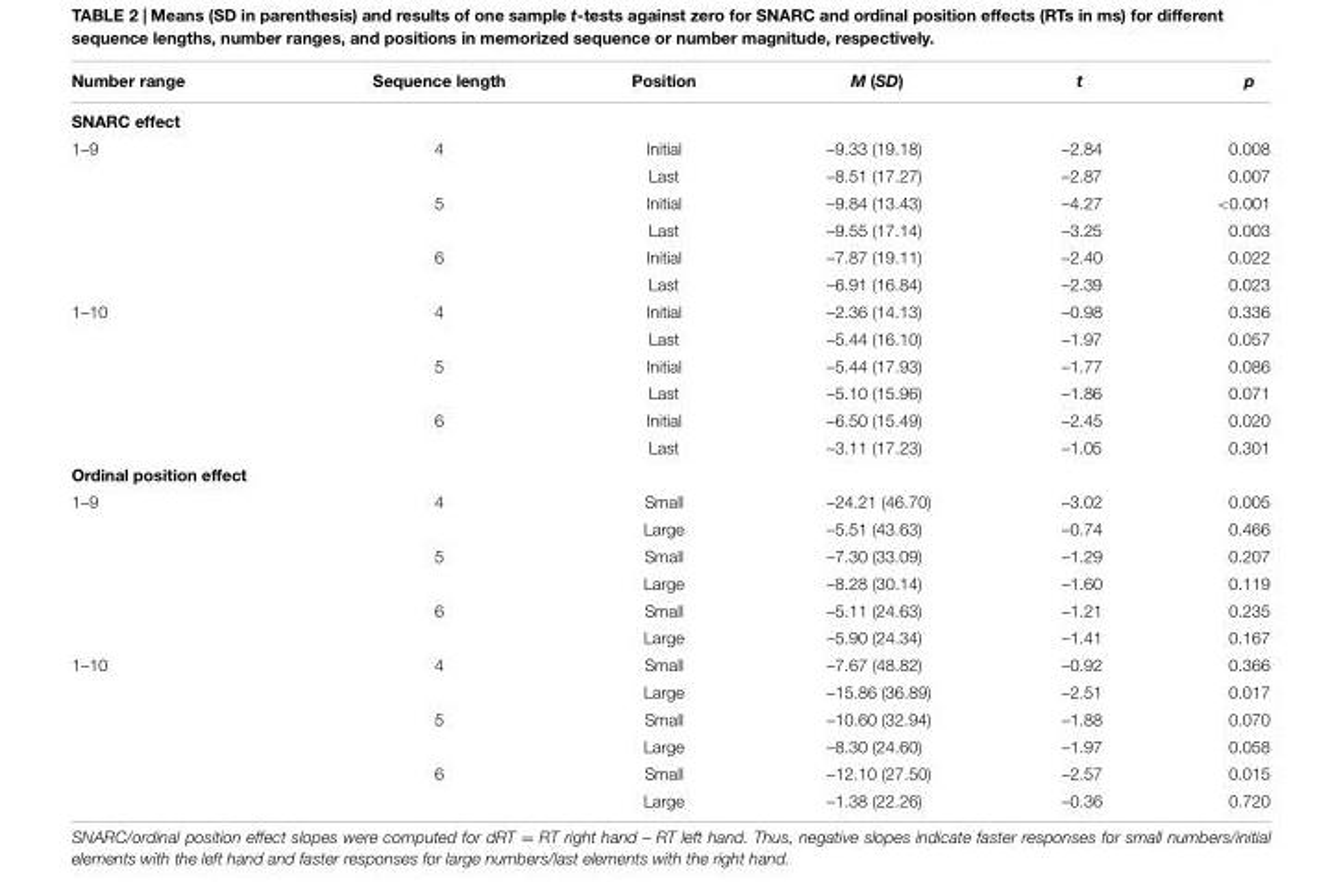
<table><thead><tr><td>Number range</td><td>Sequence length</td><td>Position</td><td>M (SD)</td><td>t</td><td>p</td></tr></thead><tbody><tr><td colspan="6">SNARC effect</td></tr><tr><td rowspan="6">1–9</td><td>4</td><td>Initial</td><td>–9.33 (19.18)</td><td>–2.84</td><td>0.008</td></tr><tr><td></td><td>Last</td><td>–8.51 (17.27)</td><td>–2.87</td><td>0.007</td></tr><tr><td>5</td><td>Initial</td><td>–9.84 (13.43)</td><td>–4.27</td><td>&lt;0.001</td></tr><tr><td></td><td>Last</td><td>–9.55 (17.14)</td><td>–3.25</td><td>0.003</td></tr><tr><td>6</td><td>Initial</td><td>–7.87 (19.11)</td><td>–2.40</td><td>0.022</td></tr><tr><td></td><td>Last</td><td>–6.91 (16.84)</td><td>–2.39</td><td>0.023</td></tr><tr><td rowspan="6">1–10</td><td>4</td><td>Initial</td><td>–2.36 (14.13)</td><td>–0.98</td><td>0.336</td></tr><tr><td></td><td>Last</td><td>–5.44 (16.10)</td><td>–1.97</td><td>0.057</td></tr><tr><td>5</td><td>Initial</td><td>–5.44 (17.93)</td><td>–1.77</td><td>0.086</td></tr><tr><td></td><td>Last</td><td>–5.10 (15.96)</td><td>–1.86</td><td>0.071</td></tr><tr><td>6</td><td>Initial</td><td>–6.50 (15.49)</td><td>–2.45</td><td>0.020</td></tr><tr><td></td><td>Last</td><td>–3.11 (17.23)</td><td>–1.05</td><td>0.301</td></tr><tr><td colspan="6">Ordinal position effect</td></tr><tr><td rowspan="6">1–9</td><td>4</td><td>Small</td><td>–24.21 (46.70)</td><td>–3.02</td><td>0.005</td></tr><tr><td></td><td>Large</td><td>–5.51 (43.63)</td><td>–0.74</td><td>0.466</td></tr><tr><td>5</td><td>Small</td><td>–7.30 (33.09)</td><td>–1.29</td><td>0.207</td></tr><tr><td></td><td>Large</td><td>–8.28 (30.14)</td><td>–1.60</td><td>0.119</td></tr><tr><td>6</td><td>Small</td><td>–5.11 (24.63)</td><td>–1.21</td><td>0.235</td></tr><tr><td></td><td>Large</td><td>–5.90 (24.34)</td><td>–1.41</td><td>0.167</td></tr><tr><td rowspan="6">1–10</td><td>4</td><td>Small</td><td>–7.67 (48.82)</td><td>–0.92</td><td>0.366</td></tr><tr><td></td><td>Large</td><td>–15.86 (36.89)</td><td>–2.51</td><td>0.017</td></tr><tr><td>5</td><td>Small</td><td>–10.60 (32.94)</td><td>–1.88</td><td>0.070</td></tr><tr><td></td><td>Large</td><td>–8.30 (24.60)</td><td>–1.97</td><td>0.058</td></tr><tr><td>6</td><td>Small</td><td>–12.10 (27.50)</td><td>–2.57</td><td>0.015</td></tr><tr><td></td><td>Large</td><td>–1.38 (22.26)</td><td>–0.36</td><td>0.720</td></tr></tbody></table>